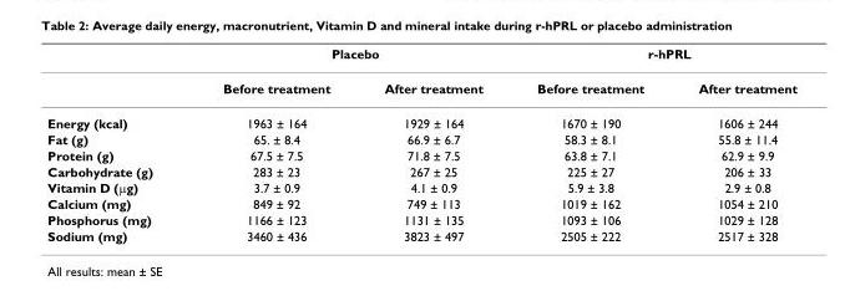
<table><thead><tr><td rowspan="2"></td><td colspan="2">Placebo</td><td colspan="2">r-hPRL</td></tr><tr><td>Before treatment</td><td>After treatment</td><td>Before treatment</td><td>After treatment</td></tr></thead><tbody><tr><td>Energy (kcal)</td><td>1963 ± 164</td><td>1929 ± 164</td><td>1670 ± 190</td><td>1606 ± 244</td></tr><tr><td>Fat (g)</td><td>65. ± 8.4</td><td>66.9 ± 6.7</td><td>58.3 ± 8.1</td><td>55.8 ± 11.4</td></tr><tr><td>Protein (g)</td><td>67.5 ± 7.5</td><td>71.8 ± 7.5</td><td>63.8 ± 7.1</td><td>62.9 ± 9.9</td></tr><tr><td>Carbohydrate (g)</td><td>283 ± 23</td><td>267 ± 25</td><td>225 ± 27</td><td>206 ± 33</td></tr><tr><td>Vitamin D (µg)</td><td>3.7 ± 0.9</td><td>4.1 ± 0.9</td><td>5.9 ± 3.8</td><td>2.9 ± 0.8</td></tr><tr><td>Calcium (mg)</td><td>849 ± 92</td><td>749 ± 113</td><td>1019 ± 162</td><td>1054 ± 210</td></tr><tr><td>Phosphorus (mg)</td><td>1166 ± 123</td><td>1131 ± 135</td><td>1093 ± 106</td><td>1029 ± 128</td></tr><tr><td>Sodium (mg)</td><td>3460 ± 436</td><td>3823 ± 497</td><td>2505 ± 222</td><td>2517 ± 328</td></tr></tbody></table>